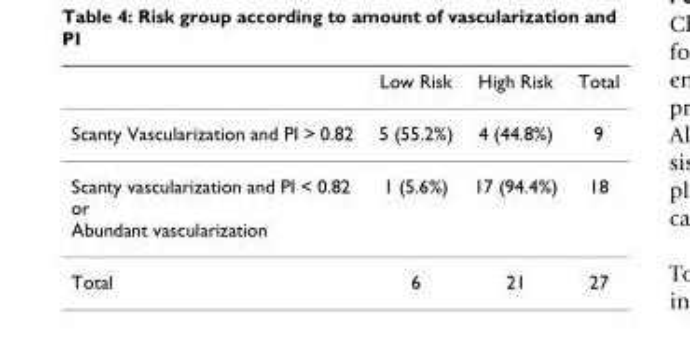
<table><thead><tr><td></td><td>Low Risk</td><td>High Risk</td><td>Total</td></tr></thead><tbody><tr><td>Scanty Vascularization and PI &gt; 0.82</td><td>5 (55.2%)</td><td>4 (44.8%)</td><td>9</td></tr><tr><td>Scanty vascularization and PI &lt; 0.82 or Abundant vascularization</td><td>1 (5.6%)</td><td>17 (94.4%)</td><td>18</td></tr><tr><td>Total</td><td>6</td><td>21</td><td>27</td></tr></tbody></table>